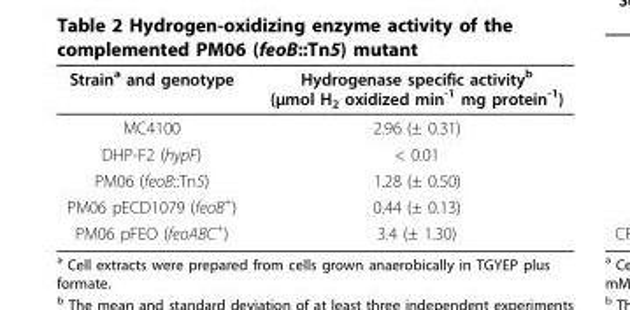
<table><thead><tr><td>Strain<sup>a</sup> and genotype</td><td>Hydrogenase specific activity<sup>b</sup> (μmol H<sub>2</sub> oxidized min<sup>-1</sup> mg protein<sup>-1</sup>)</td></tr></thead><tbody><tr><td>MC4100</td><td>2.96 (± 0.31)</td></tr><tr><td>DHP-F2 (hypF)</td><td>&lt; 0.01</td></tr><tr><td>PM06 (feoB::Tn5)</td><td>1.28 (± 0.50)</td></tr><tr><td>PM06 pECD1079 (feoB<sup>+</sup>)</td><td>0.44 (± 0.13)</td></tr><tr><td>PM06 pFEO (feoABC<sup>+</sup>)</td><td>3.4 (± 1.30)</td></tr></tbody></table>